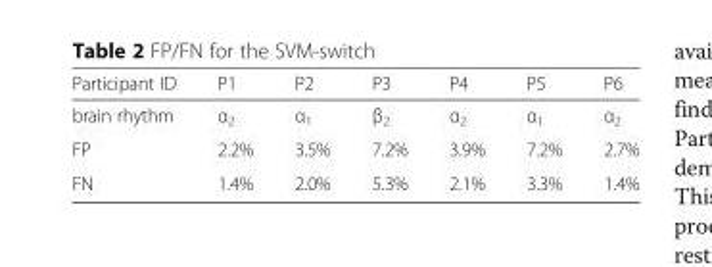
<table><thead><tr><td>Participant ID</td><td>P1</td><td>P2</td><td>P3</td><td>P4</td><td>P5</td><td>P6</td></tr></thead><tbody><tr><td>brain rhythm</td><td>α<sub>2</sub></td><td>α<sub>1</sub></td><td>β<sub>2</sub></td><td>α<sub>2</sub></td><td>α<sub>1</sub></td><td>α<sub>2</sub></td></tr><tr><td>FP</td><td>2.2%</td><td>3.5%</td><td>7.2%</td><td>3.9%</td><td>7.2%</td><td>2.7%</td></tr><tr><td>FN</td><td>1.4%</td><td>2.0%</td><td>5.3%</td><td>2.1%</td><td>3.3%</td><td>1.4%</td></tr></tbody></table>